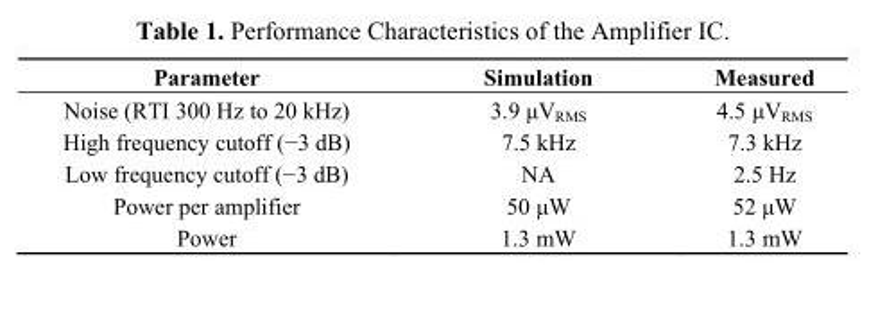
<table><thead><tr><td>Parameter</td><td>Simulation</td><td>Measured</td></tr></thead><tbody><tr><td>Noise (RTI 300 Hz to 20 kHz)</td><td>3.9 μV<sub>RMS</sub></td><td>4.5 μV<sub>RMS</sub></td></tr><tr><td>High frequency cutoff (−3 dB)</td><td>7.5 kHz</td><td>7.3 kHz</td></tr><tr><td>Low frequency cutoff (−3 dB)</td><td>NA</td><td>2.5 Hz</td></tr><tr><td>Power per amplifier</td><td>50 μW</td><td>52 μW</td></tr><tr><td>Power</td><td>1.3 mW</td><td>1.3 mW</td></tr></tbody></table>